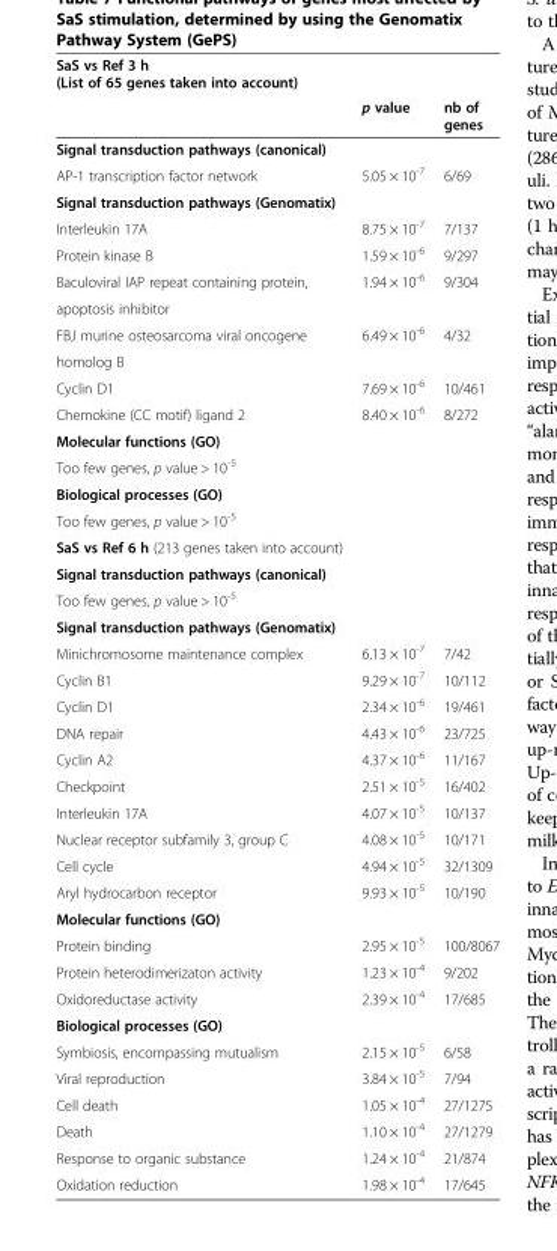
<table><thead><tr><td rowspan="2">SaS vs Ref 3 h (List of 65 genes taken into account)</td><td rowspan="2">p value</td><td rowspan="2">nb of genes</td></tr><tr></tr></thead><tbody><tr><td colspan="3">Signal transduction pathways (canonical)</td></tr><tr><td>AP-1 transcription factor network</td><td>5.05 × 10<sup>-7</sup></td><td>6/69</td></tr><tr><td colspan="3">Signal transduction pathways (Genomatix)</td></tr><tr><td>Interleukin 17A</td><td>8.75 × 10<sup>-7</sup></td><td>7/137</td></tr><tr><td>Protein kinase B</td><td>1.59 × 10<sup>-6</sup></td><td>9/297</td></tr><tr><td>Baculoviral IAP repeat containing protein,</td><td>1.94 × 10<sup>-6</sup></td><td>9/304</td></tr><tr><td colspan="3">apoptosis inhibitor</td></tr><tr><td>FBJ murine osteosarcoma viral oncogene</td><td>6.49 × 10<sup>-6</sup></td><td>4/32</td></tr><tr><td colspan="3">homolog B</td></tr><tr><td>Cyclin D1</td><td>7.69 × 10<sup>-6</sup></td><td>10/461</td></tr><tr><td>Chemokine (CC motif) ligand 2</td><td>8.40 × 10<sup>-6</sup></td><td>8/272</td></tr><tr><td colspan="3">Molecular functions (GO)</td></tr><tr><td colspan="3">Too few genes, p value &gt; 10<sup>-5</sup></td></tr><tr><td colspan="3">Biological processes (GO)</td></tr><tr><td colspan="3">Too few genes, p value &gt; 10<sup>-5</sup></td></tr><tr><td colspan="3">SaS vs Ref 6 h (213 genes taken into account)</td></tr><tr><td colspan="3">Signal transduction pathways (canonical)</td></tr><tr><td colspan="3">Too few genes, p value &gt; 10<sup>-5</sup></td></tr><tr><td colspan="3">Signal transduction pathways (Genomatix)</td></tr><tr><td>Minichromosome maintenance complex</td><td>6.13 × 10<sup>-7</sup></td><td>7/42</td></tr><tr><td>Cyclin B1</td><td>9.29 × 10<sup>-7</sup></td><td>10/112</td></tr><tr><td>Cyclin D1</td><td>2.34 × 10<sup>-6</sup></td><td>19/461</td></tr><tr><td>DNA repair</td><td>4.43 × 10<sup>-6</sup></td><td>23/725</td></tr><tr><td>Cyclin A2</td><td>4.37 × 10<sup>-6</sup></td><td>11/167</td></tr><tr><td>Checkpoint</td><td>2.51 × 10<sup>-5</sup></td><td>16/402</td></tr><tr><td>Interleukin 17A</td><td>4.07 × 10<sup>-5</sup></td><td>10/137</td></tr><tr><td>Nuclear receptor subfamily 3, group C</td><td>4.08 × 10<sup>-5</sup></td><td>10/171</td></tr><tr><td>Cell cycle</td><td>4.94 × 10<sup>-5</sup></td><td>32/1309</td></tr><tr><td>Aryl hydrocarbon receptor</td><td>9.93 × 10<sup>-5</sup></td><td>10/190</td></tr><tr><td colspan="3">Molecular functions (GO)</td></tr><tr><td>Protein binding</td><td>2.95 × 10<sup>-5</sup></td><td>100/8067</td></tr><tr><td>Protein heterodimerizaton activity</td><td>1.23 × 10<sup>-4</sup></td><td>9/202</td></tr><tr><td>Oxidoreductase activity</td><td>2.39 × 10<sup>-4</sup></td><td>17/685</td></tr><tr><td colspan="3">Biological processes (GO)</td></tr><tr><td>Symbiosis, encompassing mutualism</td><td>2.15 × 10<sup>-5</sup></td><td>6/58</td></tr><tr><td>Viral reproduction</td><td>3.84 × 10<sup>-5</sup></td><td>7/94</td></tr><tr><td>Cell death</td><td>1.05 × 10<sup>-4</sup></td><td>27/1275</td></tr><tr><td>Death</td><td>1.10 × 10<sup>-4</sup></td><td>27/1279</td></tr><tr><td>Response to organic substance</td><td>1.24 × 10<sup>-4</sup></td><td>21/874</td></tr><tr><td>Oxidation reduction</td><td>1.98 × 10<sup>-4</sup></td><td>17/645</td></tr></tbody></table>